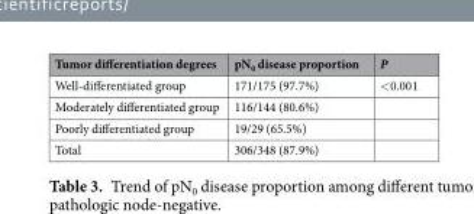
<table><thead><tr><td>Tumor differentiation degrees</td><td>pN<sub>0</sub> disease proportion</td><td>P</td></tr></thead><tbody><tr><td>Well-differentiated group</td><td>171/175 (97.7%)</td><td>&lt;0.001</td></tr><tr><td>Moderately differentiated group</td><td>116/144 (80.6%)</td><td></td></tr><tr><td>Poorly differentiated group</td><td>19/29 (65.5%)</td><td></td></tr><tr><td>Total</td><td>306/348 (87.9%)</td><td></td></tr></tbody></table>